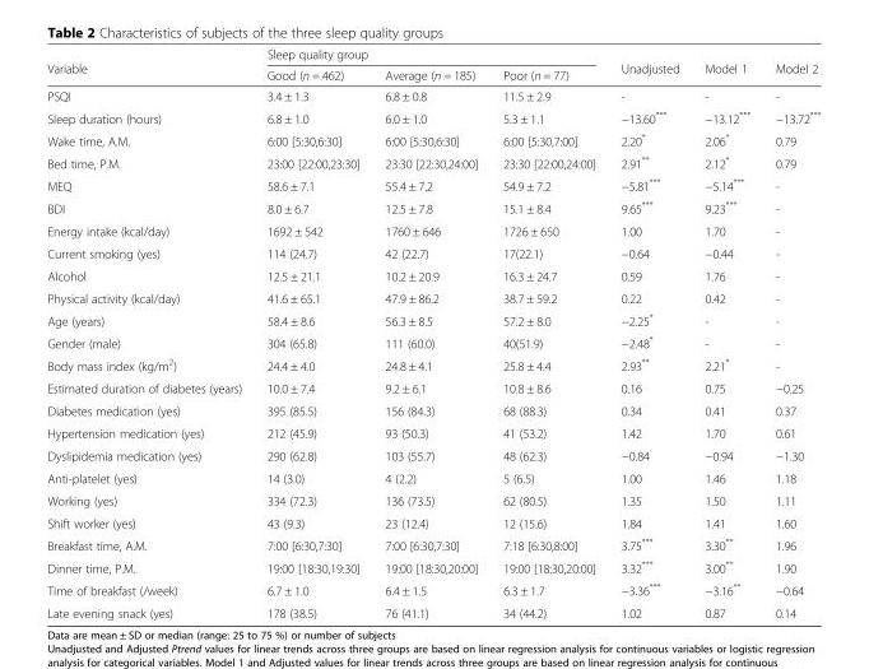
<table><thead><tr><td rowspan="2">Variable</td><td colspan="3">Sleep quality group</td><td rowspan="2">Unadjusted</td><td rowspan="2">Model 1</td><td rowspan="2">Model 2</td></tr><tr><td>Good (n = 462)</td><td>Average (n = 185)</td><td>Poor (n = 77)</td></tr></thead><tbody><tr><td>PSQI</td><td>3.4 ± 1.3</td><td>6.8 ± 0.8</td><td>11.5 ± 2.9</td><td>-</td><td>-</td><td>-</td></tr><tr><td>Sleep duration (hours)</td><td>6.8 ± 1.0</td><td>6.0 ± 1.0</td><td>5.3 ± 1.1</td><td>−13.60***</td><td>−13.12***</td><td>−13.72***</td></tr><tr><td>Wake time, A.M.</td><td>6:00 [5:30,6:30]</td><td>6:00 [5:30,6:30]</td><td>6:00 [5:30,7:00]</td><td>2.20*</td><td>2.06*</td><td>0.79</td></tr><tr><td>Bed time, P.M.</td><td>23:00 [22:00,23:30]</td><td>23:30 [22:30,24:00]</td><td>23:30 [22:00,24:00]</td><td>2.91**</td><td>2.12*</td><td>0.79</td></tr><tr><td>MEQ</td><td>58.6 ± 7.1</td><td>55.4 ± 7.2</td><td>54.9 ± 7.2</td><td>−5.81***</td><td>−5.14***</td><td>-</td></tr><tr><td>BDI</td><td>8.0 ± 6.7</td><td>12.5 ± 7.8</td><td>15.1 ± 8.4</td><td>9.65***</td><td>9.23***</td><td>-</td></tr><tr><td>Energy intake (kcal/day)</td><td>1692 ± 542</td><td>1760 ± 646</td><td>1726 ± 650</td><td>1.00</td><td>1.70</td><td>-</td></tr><tr><td>Current smoking (yes)</td><td>114 (24.7)</td><td>42 (22.7)</td><td>17(22.1)</td><td>−0.64</td><td>−0.44</td><td>-</td></tr><tr><td>Alcohol</td><td>12.5 ± 21.1</td><td>10.2 ± 20.9</td><td>16.3 ± 24.7</td><td>0.59</td><td>1.76</td><td>-</td></tr><tr><td>Physical activity (kcal/day)</td><td>41.6 ± 65.1</td><td>47.9 ± 86.2</td><td>38.7 ± 59.2</td><td>0.22</td><td>0.42</td><td>-</td></tr><tr><td>Age (years)</td><td>58.4 ± 8.6</td><td>56.3 ± 8.5</td><td>57.2 ± 8.0</td><td>−2.25*</td><td>-</td><td>-</td></tr><tr><td>Gender (male)</td><td>304 (65.8)</td><td>111 (60.0)</td><td>40(51.9)</td><td>−2.48*</td><td>-</td><td>-</td></tr><tr><td>Body mass index (kg/m<sup>2</sup>)</td><td>24.4 ± 4.0</td><td>24.8 ± 4.1</td><td>25.8 ± 4.4</td><td>2.93**</td><td>2.21*</td><td>-</td></tr><tr><td>Estimated duration of diabetes (years)</td><td>10.0 ± 7.4</td><td>9.2 ± 6.1</td><td>10.8 ± 8.6</td><td>0.16</td><td>0.75</td><td>−0.25</td></tr><tr><td>Diabetes medication (yes)</td><td>395 (85.5)</td><td>156 (84.3)</td><td>68 (88.3)</td><td>0.34</td><td>0.41</td><td>0.37</td></tr><tr><td>Hypertension medication (yes)</td><td>212 (45.9)</td><td>93 (50.3)</td><td>41 (53.2)</td><td>1.42</td><td>1.70</td><td>0.61</td></tr><tr><td>Dyslipidemia medication (yes)</td><td>290 (62.8)</td><td>103 (55.7)</td><td>48 (62.3)</td><td>−0.84</td><td>−0.94</td><td>−1.30</td></tr><tr><td>Anti-platelet (yes)</td><td>14 (3.0)</td><td>4 (2.2)</td><td>5 (6.5)</td><td>1.00</td><td>1.46</td><td>1.18</td></tr><tr><td>Working (yes)</td><td>334 (72.3)</td><td>136 (73.5)</td><td>62 (80.5)</td><td>1.35</td><td>1.50</td><td>1.11</td></tr><tr><td>Shift worker (yes)</td><td>43 (9.3)</td><td>23 (12.4)</td><td>12 (15.6)</td><td>1.84</td><td>1.41</td><td>1.60</td></tr><tr><td>Breakfast time, A.M.</td><td>7:00 [6:30,7:30]</td><td>7:00 [6:30,7:30]</td><td>7:18 [6:30,8:00]</td><td>3.75***</td><td>3.30**</td><td>1.96</td></tr><tr><td>Dinner time, P.M.</td><td>19:00 [18:30,19:30]</td><td>19:00 [18:30,20:00]</td><td>19:00 [18:30,20:00]</td><td>3.32***</td><td>3.00**</td><td>1.90</td></tr><tr><td>Time of breakfast (/week)</td><td>6.7 ± 1.0</td><td>6.4 ± 1.5</td><td>6.3 ± 1.7</td><td>−3.36***</td><td>−3.16**</td><td>−0.64</td></tr><tr><td>Late evening snack (yes)</td><td>178 (38.5)</td><td>76 (41.1)</td><td>34 (44.2)</td><td>1.02</td><td>0.87</td><td>0.14</td></tr></tbody></table>